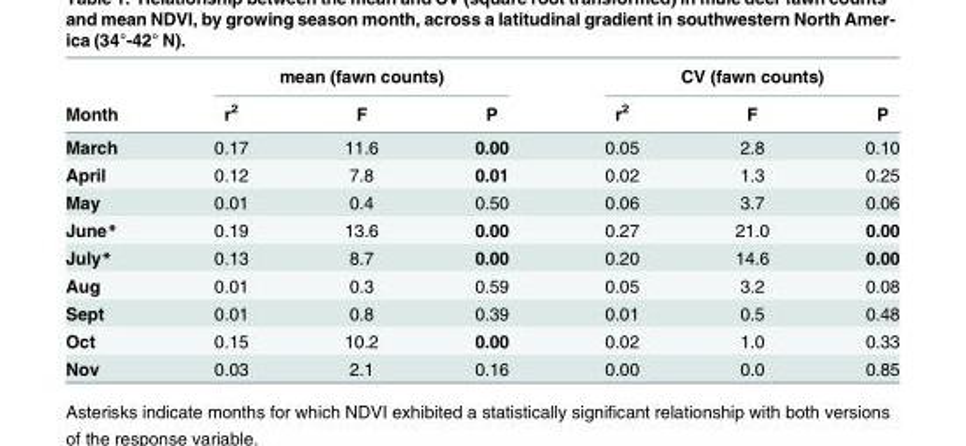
<table><thead><tr><td rowspan="2">Month</td><td colspan="3">mean (fawn counts)</td><td colspan="3">CV (fawn counts)</td></tr><tr><td>r<sup>2</sup></td><td>F</td><td>P</td><td>r<sup>2</sup></td><td>F</td><td>P</td></tr></thead><tbody><tr><td>March</td><td>0.17</td><td>11.6</td><td>0.00</td><td>0.05</td><td>2.8</td><td>0.10</td></tr><tr><td>April</td><td>0.12</td><td>7.8</td><td>0.01</td><td>0.02</td><td>1.3</td><td>0.25</td></tr><tr><td>May</td><td>0.01</td><td>0.4</td><td>0.50</td><td>0.06</td><td>3.7</td><td>0.06</td></tr><tr><td>June*</td><td>0.19</td><td>13.6</td><td>0.00</td><td>0.27</td><td>21.0</td><td>0.00</td></tr><tr><td>July*</td><td>0.13</td><td>8.7</td><td>0.00</td><td>0.20</td><td>14.6</td><td>0.00</td></tr><tr><td>Aug</td><td>0.01</td><td>0.3</td><td>0.59</td><td>0.05</td><td>3.2</td><td>0.08</td></tr><tr><td>Sept</td><td>0.01</td><td>0.8</td><td>0.39</td><td>0.01</td><td>0.5</td><td>0.48</td></tr><tr><td>Oct</td><td>0.15</td><td>10.2</td><td>0.00</td><td>0.02</td><td>1.0</td><td>0.33</td></tr><tr><td>Nov</td><td>0.03</td><td>2.1</td><td>0.16</td><td>0.00</td><td>0.0</td><td>0.85</td></tr></tbody></table>